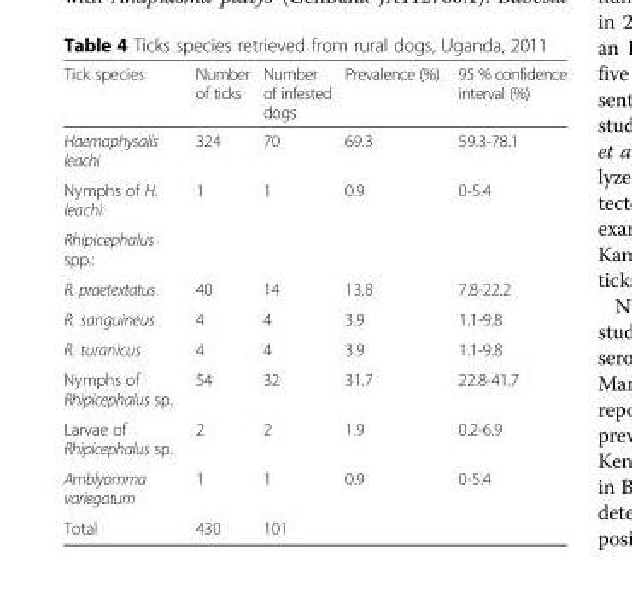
<table><thead><tr><td>Tick species</td><td>Number of ticks</td><td>Number of infested dogs</td><td>Prevalence (%)</td><td>95 % confidence interval (%)</td></tr></thead><tbody><tr><td>Haemaphysalis leachi</td><td>324</td><td>70</td><td>69.3</td><td>59.3-78.1</td></tr><tr><td>Nymphs of H. leachi</td><td>1</td><td>1</td><td>0.9</td><td>0-5.4</td></tr><tr><td colspan="5">Rhipicephalus spp.:</td></tr><tr><td>R. praetextatus</td><td>40</td><td>14</td><td>13.8</td><td>7.8-22.2</td></tr><tr><td>R. sanguineus</td><td>4</td><td>4</td><td>3.9</td><td>1.1-9.8</td></tr><tr><td>R. turanicus</td><td>4</td><td>4</td><td>3.9</td><td>1.1-9.8</td></tr><tr><td>Nymphs of Rhipicephalus sp.</td><td>54</td><td>32</td><td>31.7</td><td>22.8-41.7</td></tr><tr><td>Larvae of Rhipicephalus sp.</td><td>2</td><td>2</td><td>1.9</td><td>0.2-6.9</td></tr><tr><td>Amblyomma variegatum</td><td>1</td><td>1</td><td>0.9</td><td>0-5.4</td></tr><tr><td>Total</td><td>430</td><td>101</td><td></td><td></td></tr></tbody></table>